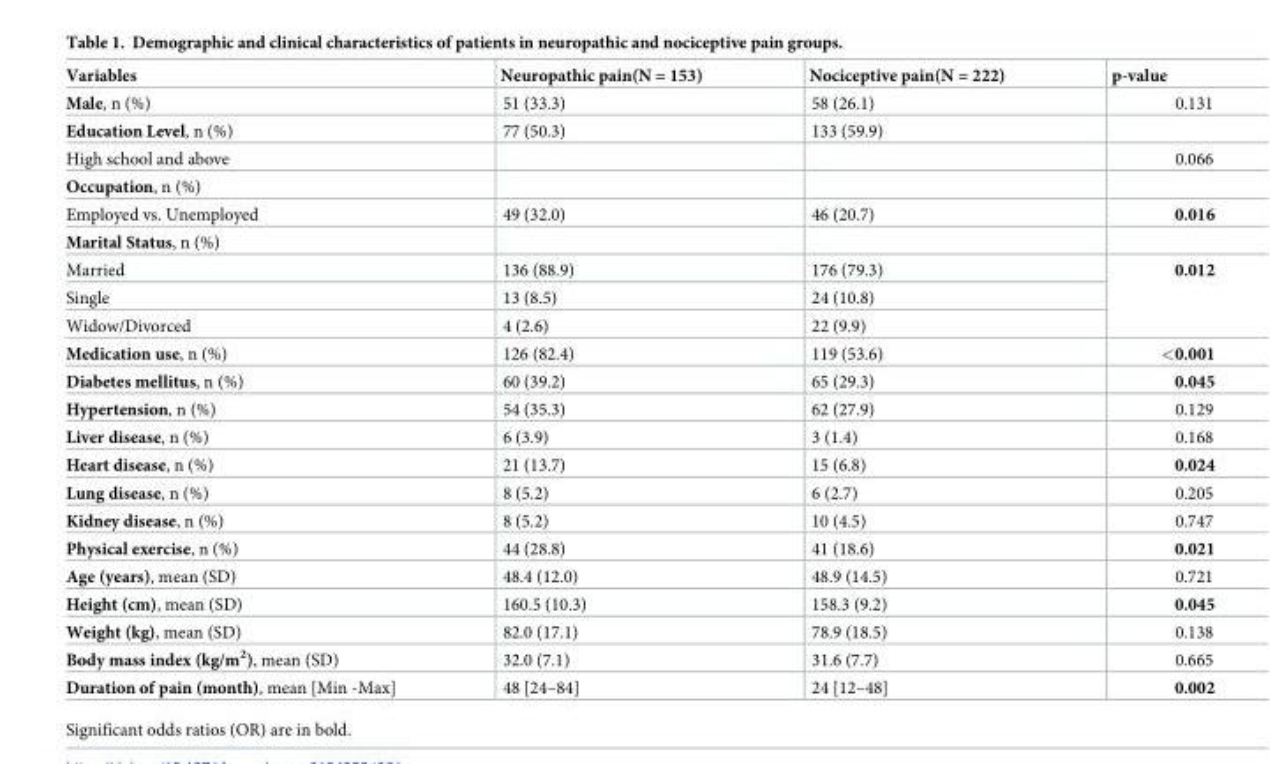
<table><thead><tr><td>Variables</td><td>Neuropathic pain(N = 153)</td><td>Nociceptive pain(N = 222)</td><td>p-value</td></tr></thead><tbody><tr><td>Male, n (%)</td><td>51 (33.3)</td><td>58 (26.1)</td><td>0.131</td></tr><tr><td>Education Level, n (%)</td><td>77 (50.3)</td><td>133 (59.9)</td><td></td></tr><tr><td>High school and above</td><td></td><td></td><td>0.066</td></tr><tr><td colspan="4">Occupation, n (%)</td></tr><tr><td>Employed vs. Unemployed</td><td>49 (32.0)</td><td>46 (20.7)</td><td>0.016</td></tr><tr><td colspan="4">Marital Status, n (%)</td></tr><tr><td>Married</td><td>136 (88.9)</td><td>176 (79.3)</td><td rowspan="3">0.012</td></tr><tr><td>Single</td><td>13 (8.5)</td><td>24 (10.8)</td></tr><tr><td>Widow/Divorced</td><td>4 (2.6)</td><td>22 (9.9)</td></tr><tr><td>Medication use, n (%)</td><td>126 (82.4)</td><td>119 (53.6)</td><td>&lt;0.001</td></tr><tr><td>Diabetes mellitus, n (%)</td><td>60 (39.2)</td><td>65 (29.3)</td><td>0.045</td></tr><tr><td>Hypertension, n (%)</td><td>54 (35.3)</td><td>62 (27.9)</td><td>0.129</td></tr><tr><td>Liver disease, n (%)</td><td>6 (3.9)</td><td>3 (1.4)</td><td>0.168</td></tr><tr><td>Heart disease, n (%)</td><td>21 (13.7)</td><td>15 (6.8)</td><td>0.024</td></tr><tr><td>Lung disease, n (%)</td><td>8 (5.2)</td><td>6 (2.7)</td><td>0.205</td></tr><tr><td>Kidney disease, n (%)</td><td>8 (5.2)</td><td>10 (4.5)</td><td>0.747</td></tr><tr><td>Physical exercise, n (%)</td><td>44 (28.8)</td><td>41 (18.6)</td><td>0.021</td></tr><tr><td>Age (years), mean (SD)</td><td>48.4 (12.0)</td><td>48.9 (14.5)</td><td>0.721</td></tr><tr><td>Height (cm), mean (SD)</td><td>160.5 (10.3)</td><td>158.3 (9.2)</td><td>0.045</td></tr><tr><td>Weight (kg), mean (SD)</td><td>82.0 (17.1)</td><td>78.9 (18.5)</td><td>0.138</td></tr><tr><td>Body mass index (kg/m<sup>2</sup>), mean (SD)</td><td>32.0 (7.1)</td><td>31.6 (7.7)</td><td>0.665</td></tr><tr><td>Duration of pain (month), mean [Min -Max]</td><td>48 [24–84]</td><td>24 [12–48]</td><td>0.002</td></tr></tbody></table>